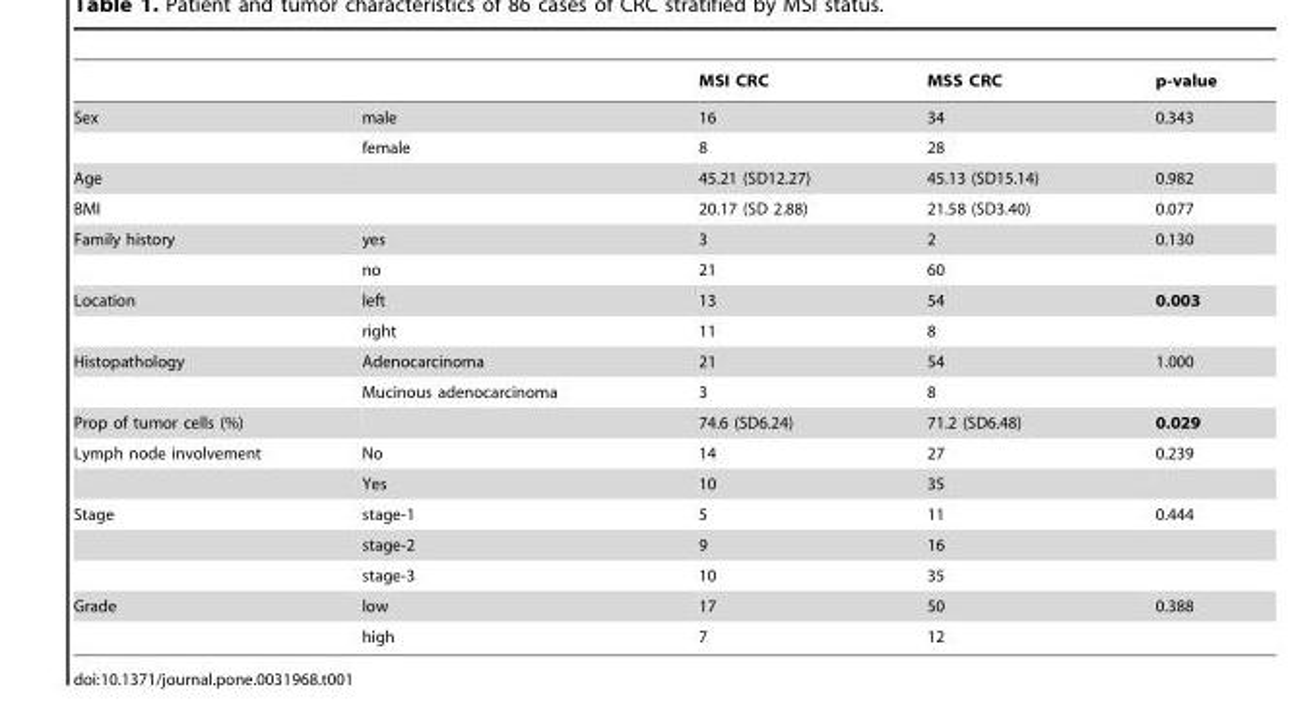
<table><thead><tr><td></td><td></td><td>MSI CRC</td><td>MSS CRC</td><td>p-value</td></tr></thead><tbody><tr><td rowspan="2">Sex</td><td>male</td><td>16</td><td>34</td><td>0.343</td></tr><tr><td>female</td><td>8</td><td>28</td><td></td></tr><tr><td>Age</td><td></td><td>45.21 (SD12.27)</td><td>45.13 (SD15.14)</td><td>0.982</td></tr><tr><td>BMI</td><td></td><td>20.17 (SD 2.88)</td><td>21.58 (SD3.40)</td><td>0.077</td></tr><tr><td rowspan="2">Family history</td><td>yes</td><td>3</td><td>2</td><td>0.130</td></tr><tr><td>no</td><td>21</td><td>60</td><td></td></tr><tr><td rowspan="2">Location</td><td>left</td><td>13</td><td>54</td><td>0.003</td></tr><tr><td>right</td><td>11</td><td>8</td><td></td></tr><tr><td rowspan="2">Histopathology</td><td>Adenocarcinoma</td><td>21</td><td>54</td><td>1.000</td></tr><tr><td>Mucinous adenocarcinoma</td><td>3</td><td>8</td><td></td></tr><tr><td>Prop of tumor cells (%)</td><td></td><td>74.6 (SD6.24)</td><td>71.2 (SD6.48)</td><td>0.029</td></tr><tr><td rowspan="2">Lymph node involvement</td><td>No</td><td>14</td><td>27</td><td>0.239</td></tr><tr><td>Yes</td><td>10</td><td>35</td><td></td></tr><tr><td rowspan="3">Stage</td><td>stage-1</td><td>5</td><td>11</td><td>0.444</td></tr><tr><td>stage-2</td><td>9</td><td>16</td><td></td></tr><tr><td>stage-3</td><td>10</td><td>35</td><td></td></tr><tr><td rowspan="2">Grade</td><td>low</td><td>17</td><td>50</td><td>0.388</td></tr><tr><td>high</td><td>7</td><td>12</td><td></td></tr></tbody></table>